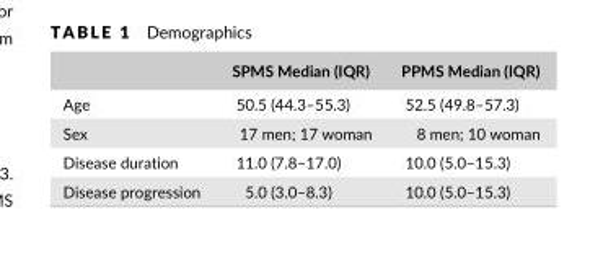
<table><thead><tr><td></td><td>SPMS Median (IQR)</td><td>PPMS Median (IQR)</td></tr></thead><tbody><tr><td>Age</td><td>50.5 (44.3–55.3)</td><td>52.5 (49.8–57.3)</td></tr><tr><td>Sex</td><td>17 men; 17 woman</td><td>8 men; 10 woman</td></tr><tr><td>Disease duration</td><td>11.0 (7.8–17.0)</td><td>10.0 (5.0–15.3)</td></tr><tr><td>Disease progression</td><td>5.0 (3.0–8.3)</td><td>10.0 (5.0–15.3)</td></tr></tbody></table>